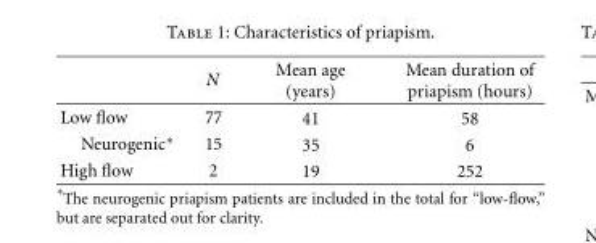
<table><thead><tr><td></td><td>N</td><td>Mean age (years)</td><td>Mean duration of priapism (hours)</td></tr></thead><tbody><tr><td>Low flow</td><td>77</td><td>41</td><td>58</td></tr><tr><td>Neurogenic∗</td><td>15</td><td>35</td><td>6</td></tr><tr><td>High flow</td><td>2</td><td>19</td><td>252</td></tr></tbody></table>